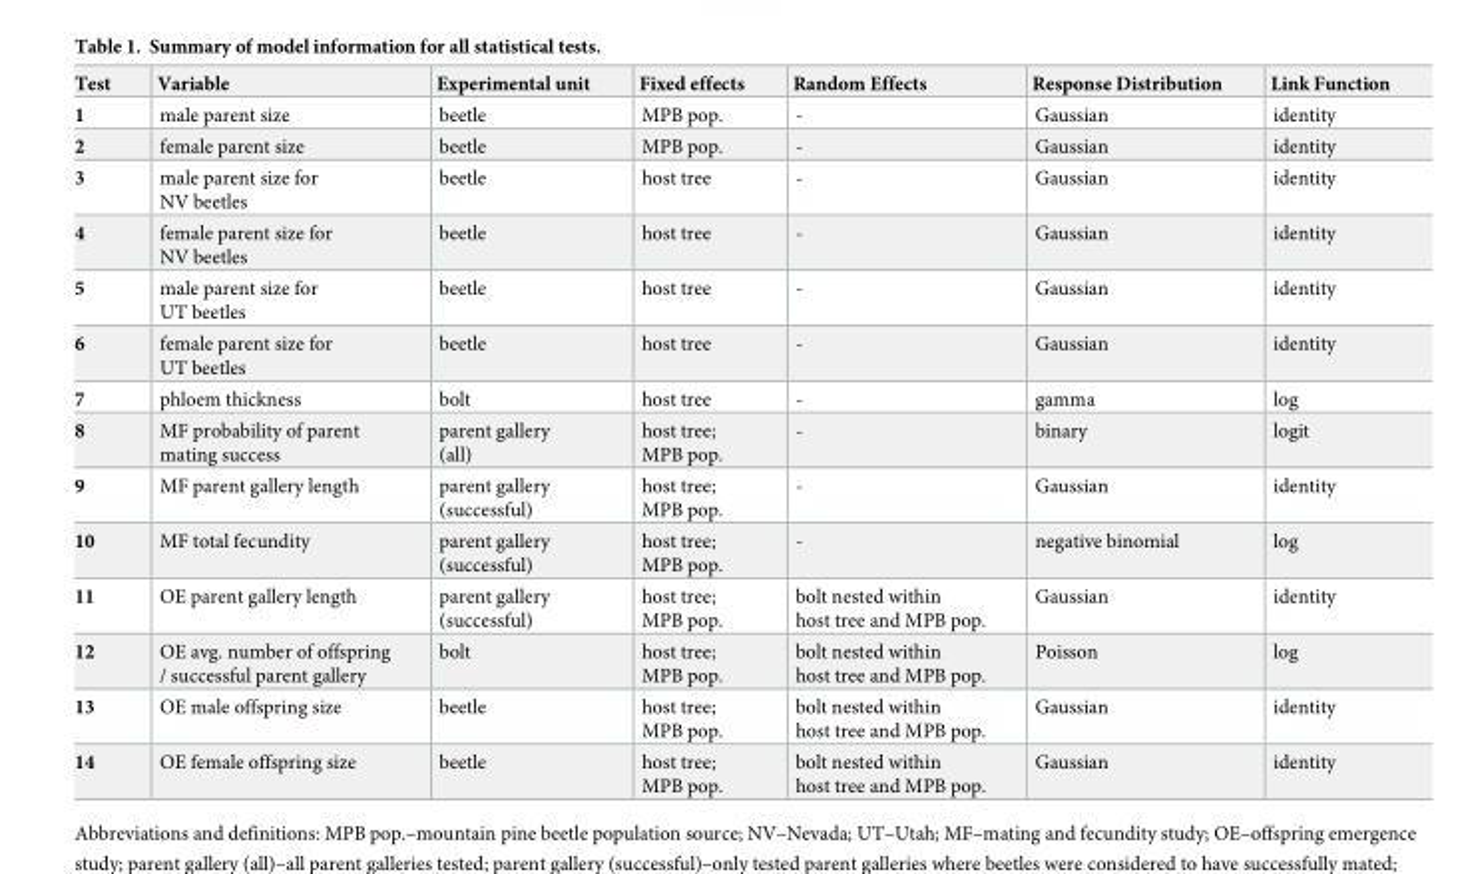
<table><thead><tr><td>Test</td><td>Variable</td><td>Experimental unit</td><td>Fixed effects</td><td>Random Effects</td><td>Response Distribution</td><td>Link Function</td></tr></thead><tbody><tr><td>1</td><td>male parent size</td><td>beetle</td><td>MPB pop.</td><td>-</td><td>Gaussian</td><td>identity</td></tr><tr><td>2</td><td>female parent size</td><td>beetle</td><td>MPB pop.</td><td>-</td><td>Gaussian</td><td>identity</td></tr><tr><td>3</td><td>male parent size for NV beetles</td><td>beetle</td><td>host tree</td><td>-</td><td>Gaussian</td><td>identity</td></tr><tr><td>4</td><td>female parent size for NV beetles</td><td>beetle</td><td>host tree</td><td>-</td><td>Gaussian</td><td>identity</td></tr><tr><td>5</td><td>male parent size for UT beetles</td><td>beetle</td><td>host tree</td><td>-</td><td>Gaussian</td><td>identity</td></tr><tr><td>6</td><td>female parent size for UT beetles</td><td>beetle</td><td>host tree</td><td>-</td><td>Gaussian</td><td>identity</td></tr><tr><td>7</td><td>phloem thickness</td><td>bolt</td><td>host tree</td><td>-</td><td>gamma</td><td>log</td></tr><tr><td>8</td><td>MF probability of parent mating success</td><td>parent gallery (all)</td><td>host tree; MPB pop.</td><td>-</td><td>binary</td><td>logit</td></tr><tr><td>9</td><td>MF parent gallery length</td><td>parent gallery (successful)</td><td>host tree; MPB pop.</td><td>-</td><td>Gaussian</td><td>identity</td></tr><tr><td>10</td><td>MF total fecundity</td><td>parent gallery (successful)</td><td>host tree; MPB pop.</td><td>-</td><td>negative binomial</td><td>log</td></tr><tr><td>11</td><td>OE parent gallery length</td><td>parent gallery (successful)</td><td>host tree; MPB pop.</td><td>bolt nested within host tree and MPB pop.</td><td>Gaussian</td><td>identity</td></tr><tr><td>12</td><td>OE avg. number of offspring / successful parent gallery</td><td>bolt</td><td>host tree; MPB pop.</td><td>bolt nested within host tree and MPB pop.</td><td>Poisson</td><td>log</td></tr><tr><td>13</td><td>OE male offspring size</td><td>beetle</td><td>host tree; MPB pop.</td><td>bolt nested within host tree and MPB pop.</td><td>Gaussian</td><td>identity</td></tr><tr><td>14</td><td>OE female offspring size</td><td>beetle</td><td>host tree; MPB pop.</td><td>bolt nested within host tree and MPB pop.</td><td>Gaussian</td><td>identity</td></tr></tbody></table>